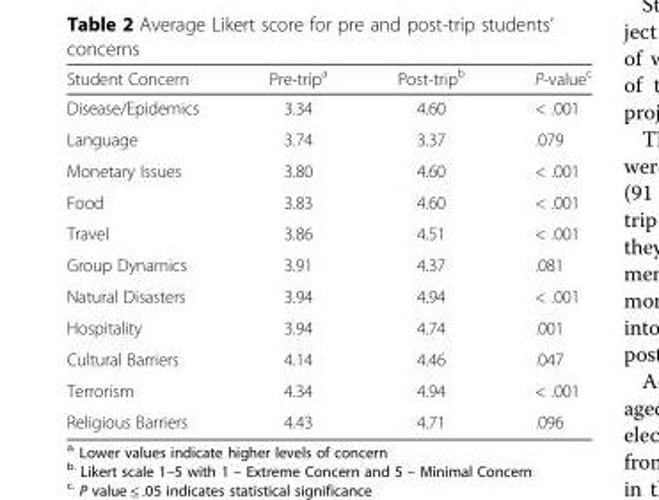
<table><thead><tr><td>Student Concern</td><td>Pre-trip<sup>a</sup></td><td>Post-trip<sup>b</sup></td><td>P-value<sup>c</sup></td></tr></thead><tbody><tr><td>Disease/Epidemics</td><td>3.34</td><td>4.60</td><td>&lt; .001</td></tr><tr><td>Language</td><td>3.74</td><td>3.37</td><td>.079</td></tr><tr><td>Monetary Issues</td><td>3.80</td><td>4.60</td><td>&lt; .001</td></tr><tr><td>Food</td><td>3.83</td><td>4.60</td><td>&lt; .001</td></tr><tr><td>Travel</td><td>3.86</td><td>4.51</td><td>&lt; .001</td></tr><tr><td>Group Dynamics</td><td>3.91</td><td>4.37</td><td>.081</td></tr><tr><td>Natural Disasters</td><td>3.94</td><td>4.94</td><td>&lt; .001</td></tr><tr><td>Hospitality</td><td>3.94</td><td>4.74</td><td>.001</td></tr><tr><td>Cultural Barriers</td><td>4.14</td><td>4.46</td><td>.047</td></tr><tr><td>Terrorism</td><td>4.34</td><td>4.94</td><td>&lt; .001</td></tr><tr><td>Religious Barriers</td><td>4.43</td><td>4.71</td><td>.096</td></tr></tbody></table>